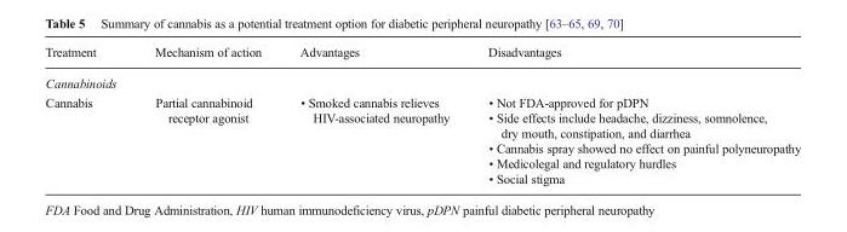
<table><thead><tr><td>Treatment</td><td>Mechanism of action</td><td>Advantages</td><td>Disadvantages</td></tr></thead><tbody><tr><td colspan="4">Cannabinoids</td></tr><tr><td>Cannabis</td><td>Partial cannabinoid receptor agonist</td><td>• Smoked cannabis relieves HIV-associated neuropathy</td><td>• Not FDA-approved for pDPN • Side effects include headache, dizziness, somnolence, dry mouth, constipation, and diarrhea • Cannabis spray showed no effect on painful polyneuropathy • Medicolegal and regulatory hurdles • Social stigma</td></tr></tbody></table>